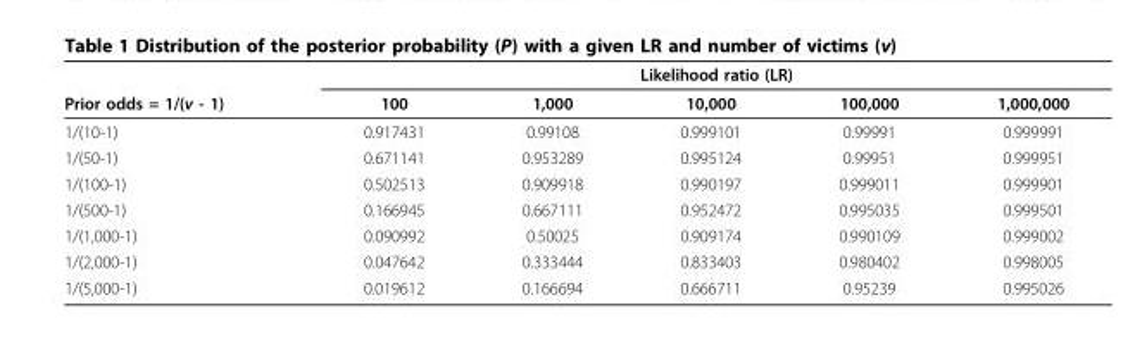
<table><thead><tr><td rowspan="2">Prior odds = 1/(v - 1)</td><td colspan="5">Likelihood ratio (LR)</td></tr><tr><td>100</td><td>1,000</td><td>10,000</td><td>100,000</td><td>1,000,000</td></tr></thead><tbody><tr><td>1/(10-1)</td><td>0.917431</td><td>0.99108</td><td>0.999101</td><td>0.99991</td><td>0.999991</td></tr><tr><td>1/(50-1)</td><td>0.671141</td><td>0.953289</td><td>0.995124</td><td>0.99951</td><td>0.999951</td></tr><tr><td>1/(100-1)</td><td>0.502513</td><td>0.909918</td><td>0.990197</td><td>0.999011</td><td>0.999901</td></tr><tr><td>1/(500-1)</td><td>0.166945</td><td>0.667111</td><td>0.952472</td><td>0.995035</td><td>0.999501</td></tr><tr><td>1/(1,000-1)</td><td>0.090992</td><td>0.50025</td><td>0.909174</td><td>0.990109</td><td>0.999002</td></tr><tr><td>1/(2,000-1)</td><td>0.047642</td><td>0.333444</td><td>0.833403</td><td>0.980402</td><td>0.998005</td></tr><tr><td>1/(5,000-1)</td><td>0.019612</td><td>0.166694</td><td>0.666711</td><td>0.95239</td><td>0.995026</td></tr></tbody></table>